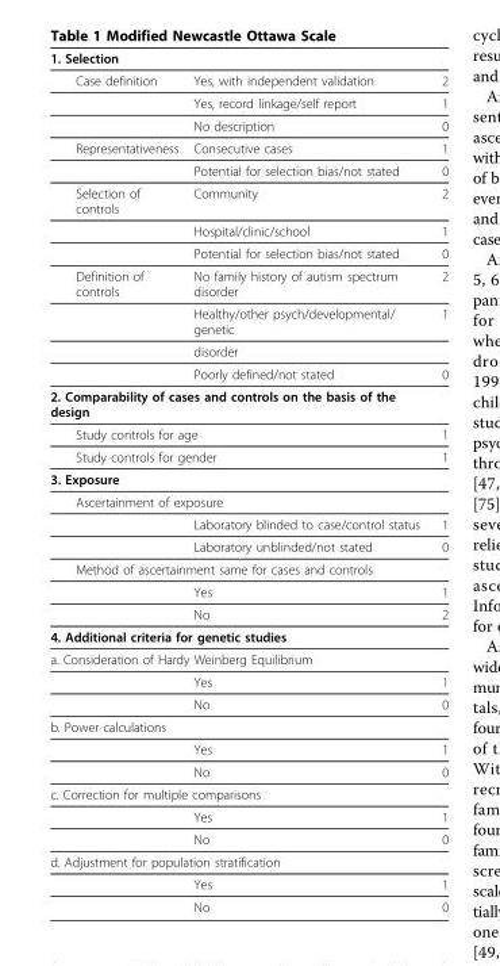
<table><thead><tr><td>1. Selection</td><td></td><td></td></tr></thead><tbody><tr><td rowspan="3">Case definition</td><td>Yes, with independent validation</td><td>2</td></tr><tr><td>Yes, record linkage/self report</td><td>1</td></tr><tr><td>No description</td><td>0</td></tr><tr><td rowspan="2">Representativeness</td><td>Consecutive cases</td><td>1</td></tr><tr><td>Potential for selection bias/not stated</td><td>0</td></tr><tr><td rowspan="3">Selection of controls</td><td>Community</td><td>2</td></tr><tr><td>Hospital/clinic/school</td><td>1</td></tr><tr><td>Potential for selection bias/not stated</td><td>0</td></tr><tr><td rowspan="4">Definition of controls</td><td>No family history of autism spectrum disorder</td><td>2</td></tr><tr><td>Healthy/other psych/developmental/ genetic</td><td>1</td></tr><tr><td>disorder</td><td></td></tr><tr><td>Poorly defined/not stated</td><td>0</td></tr><tr><td colspan="3">2. Comparability of cases and controls on the basis of the design</td></tr><tr><td colspan="2">Study controls for age</td><td>1</td></tr><tr><td colspan="2">Study controls for gender</td><td>1</td></tr><tr><td colspan="3">3. Exposure</td></tr><tr><td colspan="3">Ascertainment of exposure</td></tr><tr><td></td><td>Laboratory blinded to case/control status</td><td>1</td></tr><tr><td></td><td>Laboratory unblinded/not stated</td><td>0</td></tr><tr><td colspan="3">Method of ascertainment same for cases and controls</td></tr><tr><td></td><td>Yes</td><td>1</td></tr><tr><td></td><td>No</td><td>2</td></tr><tr><td colspan="3">4. Additional criteria for genetic studies</td></tr><tr><td colspan="3">a. Consideration of Hardy Weinberg Equilibrium</td></tr><tr><td></td><td>Yes</td><td>1</td></tr><tr><td></td><td>No</td><td>0</td></tr><tr><td colspan="3">b. Power calculations</td></tr><tr><td></td><td>Yes</td><td>1</td></tr><tr><td></td><td>No</td><td>0</td></tr><tr><td colspan="3">c. Correction for multiple comparisons</td></tr><tr><td></td><td>Yes</td><td>1</td></tr><tr><td></td><td>No</td><td>0</td></tr><tr><td colspan="3">d. Adjustment for population stratification</td></tr><tr><td></td><td>Yes</td><td>1</td></tr><tr><td></td><td>No</td><td>0</td></tr></tbody></table>